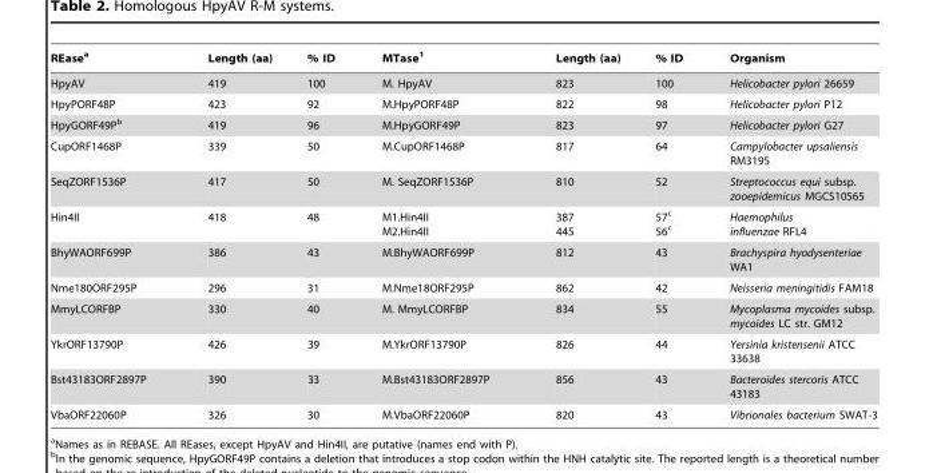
<table><thead><tr><td>REase<sup>a</sup></td><td>Length (aa)</td><td>% ID</td><td>MTase<sup>1</sup></td><td>Length (aa)</td><td>% ID</td><td>Organism</td></tr></thead><tbody><tr><td>HpyAV</td><td>419</td><td>100</td><td>M. HpyAV</td><td>823</td><td>100</td><td>Helicobacter pylori 26659</td></tr><tr><td>HpyPORF48P</td><td>423</td><td>92</td><td>M.HpyPORF48P</td><td>822</td><td>98</td><td>Helicobacter pylori P12</td></tr><tr><td>HpyGORF49P<sup>b</sup></td><td>419</td><td>96</td><td>M.HpyGORF49P</td><td>823</td><td>97</td><td>Helicobacter pylori G27</td></tr><tr><td>CupORF1468P</td><td>339</td><td>50</td><td>M.CupORF1468P</td><td>817</td><td>64</td><td>Campylobacter upsaliensis RM3195</td></tr><tr><td>SeqZORF1536P</td><td>417</td><td>50</td><td>M. SeqZORF1536P</td><td>810</td><td>52</td><td>Streptococcus equi subsp. zooepidemicus MGCS10565</td></tr><tr><td>Hin4II</td><td>418</td><td>48</td><td>M1.Hin4II M2.Hin4II</td><td>387 445</td><td>57<sup>c</sup> 56<sup>c</sup></td><td>Haemophilus influenzae RFL4</td></tr><tr><td>BhyWAORF699P</td><td>386</td><td>43</td><td>M.BhyWAORF699P</td><td>812</td><td>43</td><td>Brachyspira hyodysenteriae WA1</td></tr><tr><td>Nme180ORF295P</td><td>296</td><td>31</td><td>M.Nme18ORF295P</td><td>862</td><td>42</td><td>Neisseria meningitidis FAM18</td></tr><tr><td>MmyLCORFBP</td><td>330</td><td>40</td><td>M. MmyLCORFBP</td><td>834</td><td>55</td><td>Mycoplasma mycoides subsp. mycoides LC str. GM12</td></tr><tr><td>YkrORF13790P</td><td>426</td><td>39</td><td>M.YkrORF13790P</td><td>826</td><td>44</td><td>Yersinia kristensenii ATCC 33638</td></tr><tr><td>Bst43183ORF2897P</td><td>390</td><td>33</td><td>M.Bst43183ORF2897P</td><td>856</td><td>43</td><td>Bacteroides stercoris ATCC 43183</td></tr><tr><td>VbaORF22060P</td><td>326</td><td>30</td><td>M.VbaORF22060P</td><td>820</td><td>43</td><td>Vibrionales bacterium SWAT-3</td></tr></tbody></table>